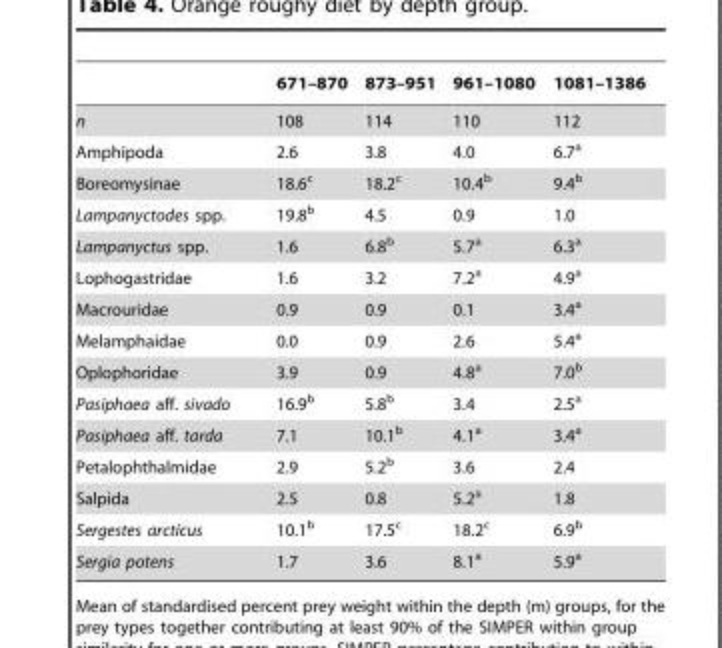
<table><thead><tr><td></td><td>671–870</td><td>873–951</td><td>961–1080</td><td>1081–1386</td></tr></thead><tbody><tr><td>n</td><td>108</td><td>114</td><td>110</td><td>112</td></tr><tr><td>Amphipoda</td><td>2.6</td><td>3.8</td><td>4.0</td><td>6.7<sup>a</sup></td></tr><tr><td>Boreomysinae</td><td>18.6<sup>c</sup></td><td>18.2<sup>c</sup></td><td>10.4<sup>b</sup></td><td>9.4<sup>b</sup></td></tr><tr><td>Lampanyctodes spp.</td><td>19.8<sup>b</sup></td><td>4.5</td><td>0.9</td><td>1.0</td></tr><tr><td>Lampanyctus spp.</td><td>1.6</td><td>6.8<sup>b</sup></td><td>5.7<sup>a</sup></td><td>6.3<sup>a</sup></td></tr><tr><td>Lophogastridae</td><td>1.6</td><td>3.2</td><td>7.2<sup>a</sup></td><td>4.9<sup>a</sup></td></tr><tr><td>Macrouridae</td><td>0.9</td><td>0.9</td><td>0.1</td><td>3.4<sup>a</sup></td></tr><tr><td>Melamphaidae</td><td>0.0</td><td>0.9</td><td>2.6</td><td>5.4<sup>a</sup></td></tr><tr><td>Oplophoridae</td><td>3.9</td><td>0.9</td><td>4.8<sup>a</sup></td><td>7.0<sup>b</sup></td></tr><tr><td>Pasiphaea aff. sivado</td><td>16.9<sup>b</sup></td><td>5.8<sup>b</sup></td><td>3.4</td><td>2.5<sup>a</sup></td></tr><tr><td>Pasiphaea aff. tarda</td><td>7.1</td><td>10.1<sup>b</sup></td><td>4.1<sup>a</sup></td><td>3.4<sup>a</sup></td></tr><tr><td>Petalophthalmidae</td><td>2.9</td><td>5.2<sup>b</sup></td><td>3.6</td><td>2.4</td></tr><tr><td>Salpida</td><td>2.5</td><td>0.8</td><td>5.2<sup>a</sup></td><td>1.8</td></tr><tr><td>Sergestes arcticus</td><td>10.1<sup>b</sup></td><td>17.5<sup>c</sup></td><td>18.2<sup>c</sup></td><td>6.9<sup>b</sup></td></tr><tr><td>Sergia potens</td><td>1.7</td><td>3.6</td><td>8.1<sup>a</sup></td><td>5.9<sup>a</sup></td></tr></tbody></table>